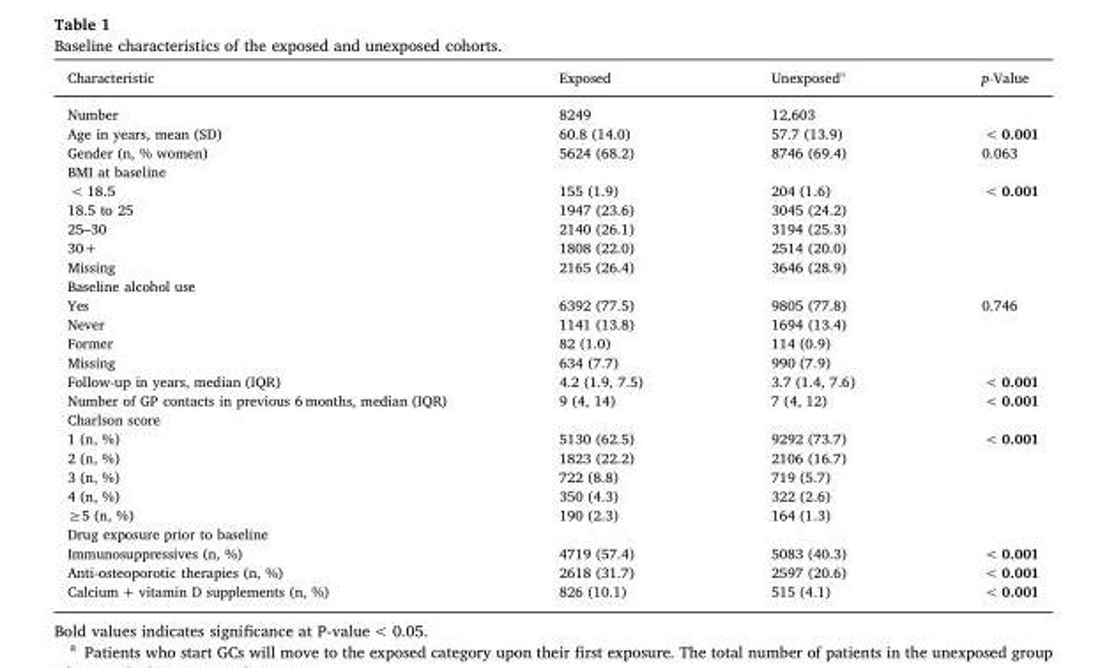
<table><thead><tr><td>Characteristic</td><td>Exposed</td><td>Unexposed<sup>a</sup></td><td>p-Value</td></tr></thead><tbody><tr><td>Number</td><td>8249</td><td>12,603</td><td></td></tr><tr><td>Age in years, mean (SD)</td><td>60.8 (14.0)</td><td>57.7 (13.9)</td><td>&lt; 0.001</td></tr><tr><td>Gender (n, % women)</td><td>5624 (68.2)</td><td>8746 (69.4)</td><td>0.063</td></tr><tr><td colspan="4">BMI at baseline</td></tr><tr><td>&lt; 18.5</td><td>155 (1.9)</td><td>204 (1.6)</td><td rowspan="5">&lt; 0.001</td></tr><tr><td>18.5 to 25</td><td>1947 (23.6)</td><td>3045 (24.2)</td></tr><tr><td>25–30</td><td>2140 (26.1)</td><td>3194 (25.3)</td></tr><tr><td>30+</td><td>1808 (22.0)</td><td>2514 (20.0)</td></tr><tr><td>Missing</td><td>2165 (26.4)</td><td>3646 (28.9)</td></tr><tr><td colspan="4">Baseline alcohol use</td></tr><tr><td>Yes</td><td>6392 (77.5)</td><td>9805 (77.8)</td><td rowspan="4">0.746</td></tr><tr><td>Never</td><td>1141 (13.8)</td><td>1694 (13.4)</td></tr><tr><td>Former</td><td>82 (1.0)</td><td>114 (0.9)</td></tr><tr><td>Missing</td><td>634 (7.7)</td><td>990 (7.9)</td></tr><tr><td>Follow-up in years, median (IQR)</td><td>4.2 (1.9, 7.5)</td><td>3.7 (1.4, 7.6)</td><td>&lt; 0.001</td></tr><tr><td>Number of GP contacts in previous 6 months, median (IQR)</td><td>9 (4, 14)</td><td>7 (4, 12)</td><td>&lt; 0.001</td></tr><tr><td colspan="4">Charlson score</td></tr><tr><td>1 (n, %)</td><td>5130 (62.5)</td><td>9292 (73.7)</td><td rowspan="5">&lt; 0.001</td></tr><tr><td>2 (n, %)</td><td>1823 (22.2)</td><td>2106 (16.7)</td></tr><tr><td>3 (n, %)</td><td>722 (8.8)</td><td>719 (5.7)</td></tr><tr><td>4 (n, %)</td><td>350 (4.3)</td><td>322 (2.6)</td></tr><tr><td>≥5 (n, %)</td><td>190 (2.3)</td><td>164 (1.3)</td></tr><tr><td colspan="4">Drug exposure prior to baseline</td></tr><tr><td>Immunosuppressives (n, %)</td><td>4719 (57.4)</td><td>5083 (40.3)</td><td>&lt; 0.001</td></tr><tr><td>Anti-osteoporotic therapies (n, %)</td><td>2618 (31.7)</td><td>2597 (20.6)</td><td>&lt; 0.001</td></tr><tr><td>Calcium + vitamin D supplements (n, %)</td><td>826 (10.1)</td><td>515 (4.1)</td><td>&lt; 0.001</td></tr></tbody></table>